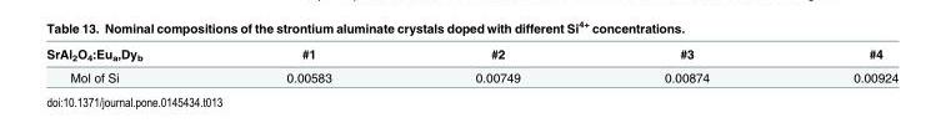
<table><thead><tr><td>SrAl<sub>2</sub>O<sub>4</sub>:Eu<sub>a</sub>,Dy<sub>b</sub></td><td>#1</td><td>#2</td><td>#3</td><td>#4</td></tr></thead><tbody><tr><td>Mol of Si</td><td>0.00583</td><td>0.00749</td><td>0.00874</td><td>0.00924</td></tr></tbody></table>